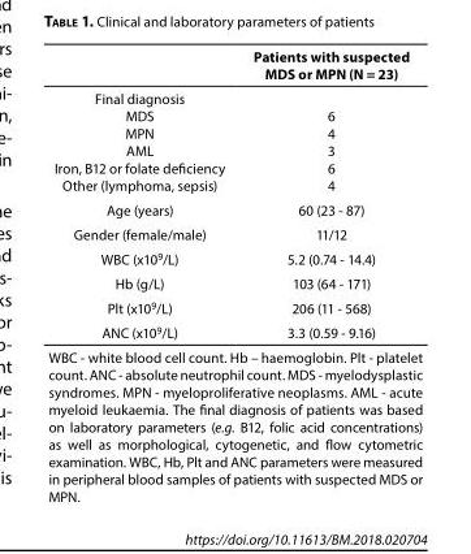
<table><thead><tr><td></td><td>Patients with suspected MDS or MPN (N = 23)</td></tr></thead><tbody><tr><td>Final diagnosis MDS MPN AML Iron, B12 or folate deficiency Other (lymphoma, sepsis)</td><td>6 4 3 6 4</td></tr><tr><td>Age (years)</td><td>60 (23 - 87)</td></tr><tr><td>Gender (female/male)</td><td>11/12</td></tr><tr><td>WBC (x10<sup>9</sup>/L)</td><td>5.2 (0.74 - 14.4)</td></tr><tr><td>Hb (g/L)</td><td>103 (64 - 171)</td></tr><tr><td>Plt (x10<sup>9</sup>/L)</td><td>206 (11 - 568)</td></tr><tr><td>ANC (x10<sup>9</sup>/L)</td><td>3.3 (0.59 - 9.16)</td></tr><tr><td colspan="2">WBC - white blood cell count. Hb – haemoglobin. Plt - platelet count. ANC - absolute neutrophil count. MDS - myelodysplastic syndromes. MPN - myeloproliferative neoplasms. AML - acute myeloid leukaemia. The final diagnosis of patients was based on laboratory parameters (e.g. B12, folic acid concentrations) as well as morphological, cytogenetic, and flow cytometric examination. WBC, Hb, Plt and ANC parameters were measured in peripheral blood samples of patients with suspected MDS or MPN.</td></tr></tbody></table>